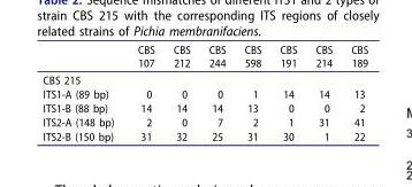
<table><thead><tr><td></td><td>CBS 107</td><td>CBS 212</td><td>CBS 244</td><td>CBS 598</td><td>CBS 191</td><td>CBS 214</td><td>CBS 189</td></tr></thead><tbody><tr><td colspan="8">CBS 215</td></tr><tr><td>ITS1-A (89 bp)</td><td>0</td><td>0</td><td>0</td><td>1</td><td>14</td><td>14</td><td>13</td></tr><tr><td>ITS1-B (88 bp)</td><td>14</td><td>14</td><td>14</td><td>13</td><td>0</td><td>0</td><td>2</td></tr><tr><td>ITS2-A (148 bp)</td><td>2</td><td>0</td><td>7</td><td>2</td><td>1</td><td>31</td><td>41</td></tr><tr><td>ITS2-B (150 bp)</td><td>31</td><td>32</td><td>25</td><td>31</td><td>30</td><td>1</td><td>22</td></tr></tbody></table>